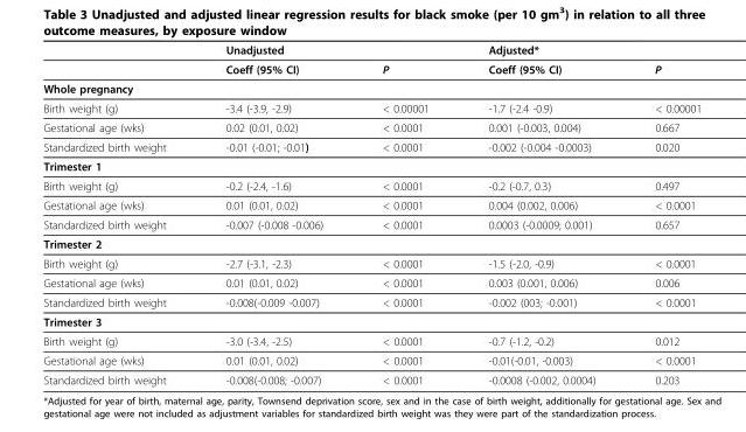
<table><thead><tr><td></td><td>Unadjusted</td><td></td><td>Adjusted*</td><td></td></tr></thead><tbody><tr><td></td><td>Coeff (95% CI)</td><td>P</td><td>Coeff (95% CI)</td><td>P</td></tr><tr><td colspan="5">Whole pregnancy</td></tr><tr><td>Birth weight (g)</td><td>-3.4 (-3.9, -2.9)</td><td>&lt; 0.00001</td><td>-1.7 (-2.4 -0.9)</td><td>&lt; 0.00001</td></tr><tr><td>Gestational age (wks)</td><td>0.02 (0.01, 0.02)</td><td>&lt; 0.0001</td><td>0.001 (-0.003, 0.004)</td><td>0.667</td></tr><tr><td>Standardized birth weight</td><td>-0.01 (-0.01; -0.01)</td><td>&lt; 0.0001</td><td>-0.002 (-0.004 -0.0003)</td><td>0.020</td></tr><tr><td colspan="5">Trimester 1</td></tr><tr><td>Birth weight (g)</td><td>-0.2 (-2.4, -1.6)</td><td>&lt; 0.0001</td><td>-0.2 (-0.7, 0.3)</td><td>0.497</td></tr><tr><td>Gestational age (wks)</td><td>0.01 (0.01, 0.02)</td><td>&lt; 0.0001</td><td>0.004 (0.002, 0.006)</td><td>&lt; 0.0001</td></tr><tr><td>Standardized birth weight</td><td>-0.007 (-0.008 -0.006)</td><td>&lt; 0.0001</td><td>0.0003 (-0.0009; 0.001)</td><td>0.657</td></tr><tr><td colspan="5">Trimester 2</td></tr><tr><td>Birth weight (g)</td><td>-2.7 (-3.1, -2.3)</td><td>&lt; 0.0001</td><td>-1.5 (-2.0, -0.9)</td><td>&lt; 0.0001</td></tr><tr><td>Gestational age (wks)</td><td>0.01 (0.01, 0.02)</td><td>&lt; 0.0001</td><td>0.003 (0.001, 0.006)</td><td>0.006</td></tr><tr><td>Standardized birth weight</td><td>-0.008(-0.009 -0.007)</td><td>&lt; 0.0001</td><td>-0.002 (003; -0.001)</td><td>&lt; 0.0001</td></tr><tr><td colspan="5">Trimester 3</td></tr><tr><td>Birth weight (g)</td><td>-3.0 (-3.4, -2.5)</td><td>&lt; 0.0001</td><td>-0.7 (-1.2, -0.2)</td><td>0.012</td></tr><tr><td>Gestational age (wks)</td><td>0.01 (0.01, 0.02)</td><td>&lt; 0.0001</td><td>-0.01(-0.01, -0.003)</td><td>&lt; 0.0001</td></tr><tr><td>Standardized birth weight</td><td>-0.008(-0.008; -0.007)</td><td>&lt; 0.0001</td><td>-0.0008 (-0.002, 0.0004)</td><td>0.203</td></tr></tbody></table>